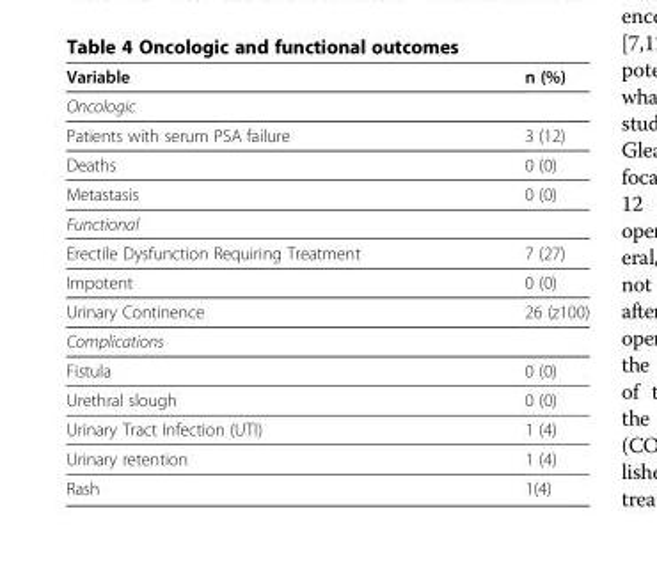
<table><thead><tr><td>Variable</td><td>n (%)</td></tr></thead><tbody><tr><td colspan="2">Oncologic</td></tr><tr><td>Patients with serum PSA failure</td><td>3 (12)</td></tr><tr><td>Deaths</td><td>0 (0)</td></tr><tr><td>Metastasis</td><td>0 (0)</td></tr><tr><td colspan="2">Functional</td></tr><tr><td>Erectile Dysfunction Requiring Treatment</td><td>7 (27)</td></tr><tr><td>Impotent</td><td>0 (0)</td></tr><tr><td>Urinary Continence</td><td>26 (z100)</td></tr><tr><td colspan="2">Complications</td></tr><tr><td>Fistula</td><td>0 (0)</td></tr><tr><td>Urethral slough</td><td>0 (0)</td></tr><tr><td>Urinary Tract Infection (UTI)</td><td>1 (4)</td></tr><tr><td>Urinary retention</td><td>1 (4)</td></tr><tr><td>Rash</td><td>1(4)</td></tr></tbody></table>